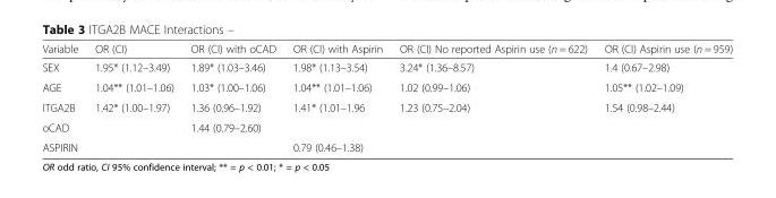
<table><thead><tr><td>Variable</td><td>OR (CI)</td><td>OR (CI) with oCAD</td><td>OR (CI) with Aspirin</td><td>OR (CI) No reported Aspirin use (n = 622)</td><td>OR (CI) Aspirin use (n = 959)</td></tr></thead><tbody><tr><td>SEX</td><td>1.95* (1.12–3.49)</td><td>1.89* (1.03–3.46)</td><td>1.98* (1.13–3.54)</td><td>3.24* (1.36–8.57)</td><td>1.4 (0.67–2.98)</td></tr><tr><td>AGE</td><td>1.04** (1.01–1.06)</td><td>1.03* (1.00–1.06)</td><td>1.04** (1.01–1.06)</td><td>1.02 (0.99–1.06)</td><td>1.05** (1.02–1.09)</td></tr><tr><td>ITGA2B</td><td>1.42* (1.00–1.97)</td><td>1.36 (0.96–1.92)</td><td>1.41* (1.01–1.96</td><td>1.23 (0.75–2.04)</td><td>1.54 (0.98–2.44)</td></tr><tr><td>oCAD</td><td></td><td>1.44 (0.79–2.60)</td><td></td><td></td><td></td></tr><tr><td>ASPIRIN</td><td></td><td></td><td>0.79 (0.46–1.38)</td><td></td><td></td></tr></tbody></table>